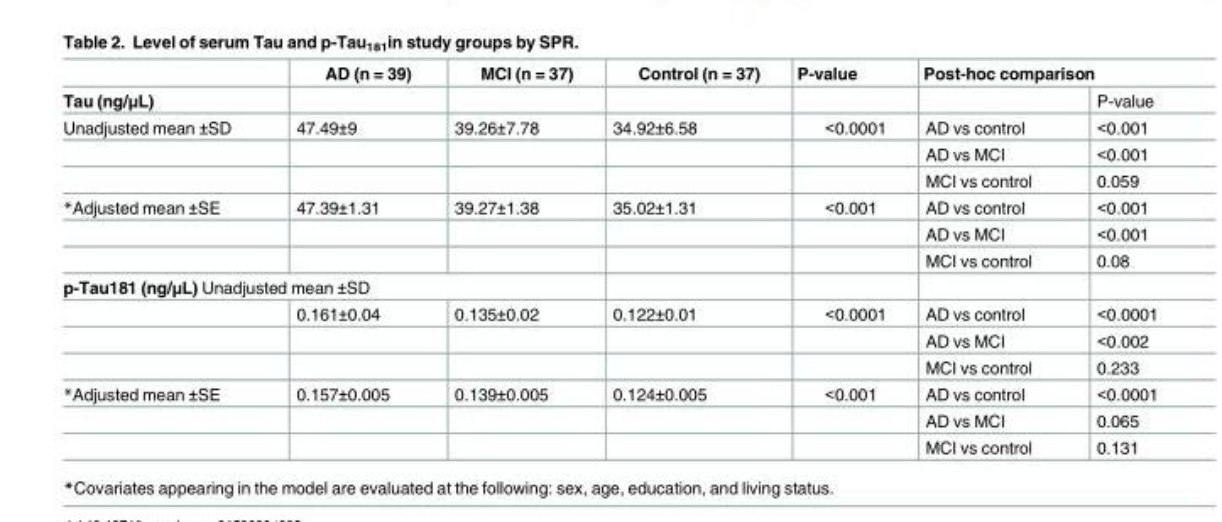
<table><thead><tr><td rowspan="2">Tau (ng/μL)</td><td rowspan="2">AD (n = 39)</td><td rowspan="2">MCI (n = 37)</td><td rowspan="2">Control (n = 37)</td><td rowspan="2">P-value</td><td colspan="2">Post-hoc comparison</td></tr><tr><td></td><td>P-value</td></tr></thead><tbody><tr><td rowspan="3">Unadjusted mean ±SD</td><td>47.49±9</td><td>39.26±7.78</td><td>34.92±6.58</td><td>&lt;0.0001</td><td>AD vs control</td><td>&lt;0.001</td></tr><tr><td></td><td></td><td></td><td></td><td>AD vs MCI</td><td>&lt;0.001</td></tr><tr><td></td><td></td><td></td><td></td><td>MCI vs control</td><td>0.059</td></tr><tr><td rowspan="3">*Adjusted mean ±SE</td><td>47.39±1.31</td><td>39.27±1.38</td><td>35.02±1.31</td><td>&lt;0.001</td><td>AD vs control</td><td>&lt;0.001</td></tr><tr><td></td><td></td><td></td><td></td><td>AD vs MCI</td><td>&lt;0.001</td></tr><tr><td></td><td></td><td></td><td></td><td>MCI vs control</td><td>0.08</td></tr><tr><td colspan="7">p-Tau181 (ng/μL) Unadjusted mean ±SD</td></tr><tr><td></td><td>0.161±0.04</td><td>0.135±0.02</td><td>0.122±0.01</td><td>&lt;0.0001</td><td>AD vs control</td><td>&lt;0.0001</td></tr><tr><td></td><td></td><td></td><td></td><td></td><td>AD vs MCI</td><td>&lt;0.002</td></tr><tr><td></td><td></td><td></td><td></td><td></td><td>MCI vs control</td><td>0.233</td></tr><tr><td rowspan="3">*Adjusted mean ±SE</td><td>0.157±0.005</td><td>0.139±0.005</td><td>0.124±0.005</td><td>&lt;0.001</td><td>AD vs control</td><td>&lt;0.0001</td></tr><tr><td></td><td></td><td></td><td></td><td>AD vs MCI</td><td>0.065</td></tr><tr><td></td><td></td><td></td><td></td><td>MCI vs control</td><td>0.131</td></tr></tbody></table>